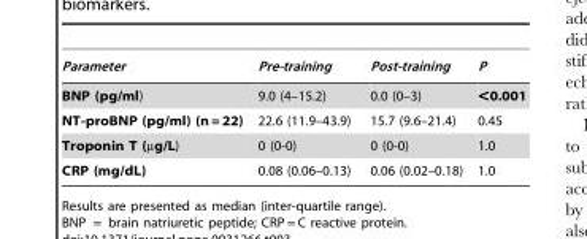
<table><thead><tr><td>Parameter</td><td>Pre-training</td><td>Post-training</td><td>P</td></tr></thead><tbody><tr><td>BNP (pg/ml)</td><td>9.0 (4–15.2)</td><td>0.0 (0–3)</td><td>&lt;0.001</td></tr><tr><td>NT-proBNP (pg/ml) (n = 22)</td><td>22.6 (11.9–43.9)</td><td>15.7 (9.6–21.4)</td><td>0.45</td></tr><tr><td>Troponin T (µg/L)</td><td>0 (0-0)</td><td>0 (0-0)</td><td>1.0</td></tr><tr><td>CRP (mg/dL)</td><td>0.08 (0.06–0.13)</td><td>0.06 (0.02–0.18)</td><td>1.0</td></tr></tbody></table>